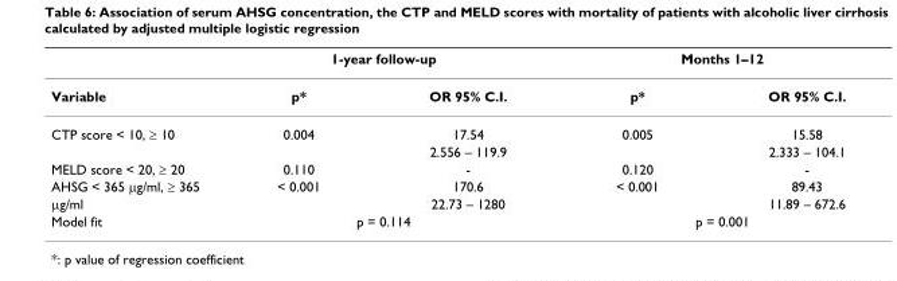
<table><thead><tr><td rowspan="2">Variable</td><td colspan="2">1-year follow-up</td><td colspan="2">Months 1–12</td></tr><tr><td>p*</td><td>OR 95% C.I.</td><td>p*</td><td>OR 95% C.I.</td></tr></thead><tbody><tr><td rowspan="2">CTP score &lt; 10, ≥ 10</td><td>0.004</td><td>17.54</td><td>0.005</td><td>15.58</td></tr><tr><td></td><td>2.556 – 119.9</td><td></td><td>2.333 – 104.1</td></tr><tr><td>MELD score &lt; 20, ≥ 20</td><td>0.110</td><td>-</td><td>0.120</td><td>-</td></tr><tr><td>AHSG &lt; 365 μg/ml, ≥ 365</td><td>&lt; 0.001</td><td>170.6</td><td>&lt; 0.001</td><td>89.43</td></tr><tr><td>μg/ml</td><td></td><td>22.73 – 1280</td><td></td><td>11.89 – 672.6</td></tr><tr><td>Model fit</td><td colspan="2">p = 0.114</td><td colspan="2">p = 0.001</td></tr></tbody></table>